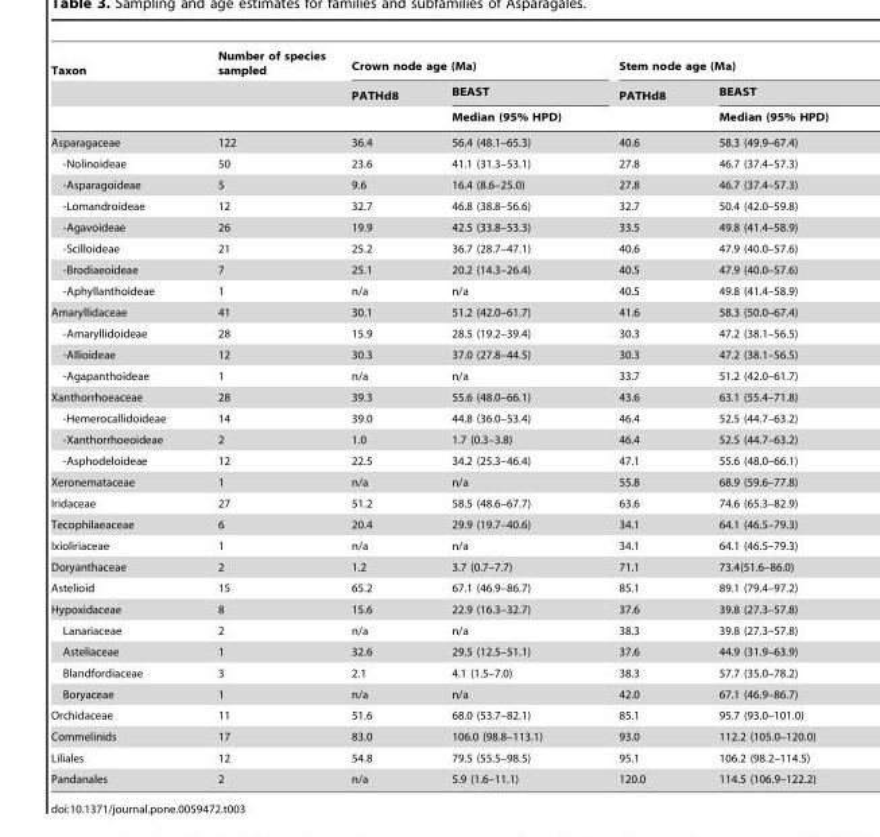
<table><thead><tr><td rowspan="3">Taxon</td><td rowspan="3">Number of species sampled</td><td colspan="2">Crown node age (Ma)</td><td colspan="2">Stem node age (Ma)</td></tr><tr><td rowspan="2">PATHd8</td><td rowspan="2">BEAST Median (95% HPD)</td><td rowspan="2">PATHd8</td><td rowspan="2">BEAST Median (95% HPD)</td></tr><tr></tr></thead><tbody><tr><td>Asparagaceae</td><td>122</td><td>36.4</td><td>56.4 (48.1–65.3)</td><td>40.6</td><td>58.3 (49.9–67.4)</td></tr><tr><td>-Nolinoideae</td><td>50</td><td>23.6</td><td>41.1 (31.3–53.1)</td><td>27.8</td><td>46.7 (37.4–57.3)</td></tr><tr><td>-Asparagoideae</td><td>5</td><td>9.6</td><td>16.4 (8.6–25.0)</td><td>27.8</td><td>46.7 (37.4–57.3)</td></tr><tr><td>-Lomandroideae</td><td>12</td><td>32.7</td><td>46.8 (38.8–56.6)</td><td>32.7</td><td>50.4 (42.0–59.8)</td></tr><tr><td>-Agavoideae</td><td>26</td><td>19.9</td><td>42.5 (33.8–53.3)</td><td>33.5</td><td>49.8 (41.4–58.9)</td></tr><tr><td>-Scilloideae</td><td>21</td><td>25.2</td><td>36.7 (28.7–47.1)</td><td>40.6</td><td>47.9 (40.0–57.6)</td></tr><tr><td>-Brodiaeoideae</td><td>7</td><td>25.1</td><td>20.2 (14.3–26.4)</td><td>40.5</td><td>47.9 (40.0–57.6)</td></tr><tr><td>-Aphyllanthoideae</td><td>1</td><td>n/a</td><td>n/a</td><td>40.5</td><td>49.8 (41.4–58.9)</td></tr><tr><td>Amaryllidaceae</td><td>41</td><td>30.1</td><td>51.2 (42.0–61.7)</td><td>41.6</td><td>58.3 (50.0–67.4)</td></tr><tr><td>-Amaryllidoideae</td><td>28</td><td>15.9</td><td>28.5 (19.2–39.4)</td><td>30.3</td><td>47.2 (38.1–56.5)</td></tr><tr><td>-Allioideae</td><td>12</td><td>30.3</td><td>37.0 (27.8–44.5)</td><td>30.3</td><td>47.2 (38.1–56.5)</td></tr><tr><td>-Agapanthoideae</td><td>1</td><td>n/a</td><td>n/a</td><td>33.7</td><td>51.2 (42.0–61.7)</td></tr><tr><td>Xanthorrhoeaceae</td><td>28</td><td>39.3</td><td>55.6 (48.0–66.1)</td><td>43.6</td><td>63.1 (55.4–71.8)</td></tr><tr><td>-Hemerocallidoideae</td><td>14</td><td>39.0</td><td>44.8 (36.0–53.4)</td><td>46.4</td><td>52.5 (44.7–63.2)</td></tr><tr><td>-Xanthorrhoeoideae</td><td>2</td><td>1.0</td><td>1.7 (0.3–3.8)</td><td>46.4</td><td>52.5 (44.7–63.2)</td></tr><tr><td>-Asphodeloideae</td><td>12</td><td>22.5</td><td>34.2 (25.3–46.4)</td><td>47.1</td><td>55.6 (48.0–66.1)</td></tr><tr><td>Xeronemataceae</td><td>1</td><td>n/a</td><td>n/a</td><td>55.8</td><td>68.9 (59.6–77.8)</td></tr><tr><td>Iridaceae</td><td>27</td><td>51.2</td><td>58.5 (48.6–67.7)</td><td>63.6</td><td>74.6 (65.3–82.9)</td></tr><tr><td>Tecophilaeaceae</td><td>6</td><td>20.4</td><td>29.9 (19.7–40.6)</td><td>34.1</td><td>64.1 (46.5–79.3)</td></tr><tr><td>Ixioliriaceae</td><td>1</td><td>n/a</td><td>n/a</td><td>34.1</td><td>64.1 (46.5–79.3)</td></tr><tr><td>Doryanthaceae</td><td>2</td><td>1.2</td><td>3.7 (0.7–7.7)</td><td>71.1</td><td>73.4(51.6–86.0)</td></tr><tr><td>Astelioid</td><td>15</td><td>65.2</td><td>67.1 (46.9–86.7)</td><td>85.1</td><td>89.1 (79.4–97.2)</td></tr><tr><td>Hypoxidaceae</td><td>8</td><td>15.6</td><td>22.9 (16.3–32.7)</td><td>37.6</td><td>39.8 (27.3–57.8)</td></tr><tr><td>Lanariaceae</td><td>2</td><td>n/a</td><td>n/a</td><td>38.3</td><td>39.8 (27.3–57.8)</td></tr><tr><td>Asteliaceae</td><td>1</td><td>32.6</td><td>29.5 (12.5–51.1)</td><td>37.6</td><td>44.9 (31.9–63.9)</td></tr><tr><td>Blandfordiaceae</td><td>3</td><td>2.1</td><td>4.1 (1.5–7.0)</td><td>38.3</td><td>57.7 (35.0–78.2)</td></tr><tr><td>Boryaceae</td><td>1</td><td>n/a</td><td>n/a</td><td>42.0</td><td>67.1 (46.9–86.7)</td></tr><tr><td>Orchidaceae</td><td>11</td><td>51.6</td><td>68.0 (53.7–82.1)</td><td>85.1</td><td>95.7 (93.0–101.0)</td></tr><tr><td>Commelinids</td><td>17</td><td>83.0</td><td>106.0 (98.8–113.1)</td><td>93.0</td><td>112.2 (105.0–120.0)</td></tr><tr><td>Liliales</td><td>12</td><td>54.8</td><td>79.5 (55.5–98.5)</td><td>95.1</td><td>106.2 (98.2–114.5)</td></tr><tr><td>Pandanales</td><td>2</td><td>n/a</td><td>5.9 (1.6–11.1)</td><td>120.0</td><td>114.5 (106.9–122.2)</td></tr></tbody></table>